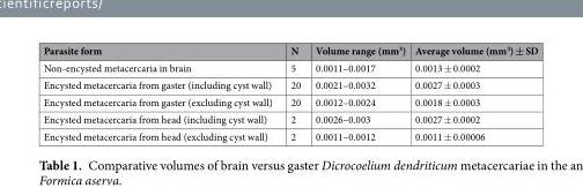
<table><thead><tr><td>Parasite form</td><td>N</td><td>Volume range (mm<sup>3</sup>)</td><td>Average volume (mm<sup>3</sup>) ± SD</td></tr></thead><tbody><tr><td>Non-encysted metacercaria in brain</td><td>5</td><td>0.0011–0.0017</td><td>0.0013 ± 0.0002</td></tr><tr><td>Encysted metacercaria from gaster (including cyst wall)</td><td>20</td><td>0.0021–0.0032</td><td>0.0027 ± 0.0003</td></tr><tr><td>Encysted metacercaria from gaster (excluding cyst wall)</td><td>20</td><td>0.0012–0.0024</td><td>0.0018 ± 0.0003</td></tr><tr><td>Encysted metacercaria from head (including cyst wall)</td><td>2</td><td>0.0026–0.003</td><td>0.0027 ± 0.0002</td></tr><tr><td>Encysted metacercaria from head (excluding cyst wall)</td><td>2</td><td>0.0011–0.0012</td><td>0.0011 ± 0.00006</td></tr></tbody></table>